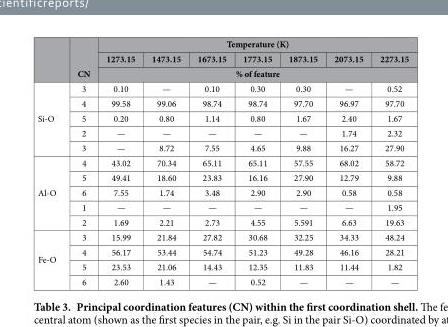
<table><thead><tr><td rowspan="3"></td><td rowspan="3">CN</td><td colspan="7">Temperature (K)</td></tr><tr><td>1273.15</td><td>1473.15</td><td>1673.15</td><td>1773.15</td><td>1873.15</td><td>2073.15</td><td>2273.15</td></tr><tr><td colspan="7">% of feature</td></tr></thead><tbody><tr><td rowspan="5">Si-O</td><td>3</td><td>0.10</td><td>—</td><td>0.10</td><td>0.30</td><td>0.30</td><td>—</td><td>0.52</td></tr><tr><td>4</td><td>99.58</td><td>99.06</td><td>98.74</td><td>98.74</td><td>97.70</td><td>96.97</td><td>97.70</td></tr><tr><td>5</td><td>0.20</td><td>0.80</td><td>1.14</td><td>0.80</td><td>1.67</td><td>2.40</td><td>1.67</td></tr><tr><td>2</td><td>—</td><td>—</td><td>—</td><td>—</td><td>—</td><td>1.74</td><td>2.32</td></tr><tr><td>3</td><td>—</td><td>8.72</td><td>7.55</td><td>4.65</td><td>9.88</td><td>16.27</td><td>27.90</td></tr><tr><td rowspan="5">Al-O</td><td>4</td><td>43.02</td><td>70.34</td><td>65.11</td><td>65.11</td><td>57.55</td><td>68.02</td><td>58.72</td></tr><tr><td>5</td><td>49.41</td><td>18.60</td><td>23.83</td><td>16.16</td><td>27.90</td><td>12.79</td><td>9.88</td></tr><tr><td>6</td><td>7.55</td><td>1.74</td><td>3.48</td><td>2.90</td><td>2.90</td><td>0.58</td><td>0.58</td></tr><tr><td>1</td><td>—</td><td>—</td><td>—</td><td>—</td><td>—</td><td>—</td><td>1.95</td></tr><tr><td>2</td><td>1.69</td><td>2.21</td><td>2.73</td><td>4.55</td><td>5.591</td><td>6.63</td><td>19.63</td></tr><tr><td rowspan="4">Fe-O</td><td>3</td><td>15.99</td><td>21.84</td><td>27.82</td><td>30.68</td><td>32.25</td><td>34.33</td><td>48.24</td></tr><tr><td>4</td><td>56.17</td><td>53.44</td><td>54.74</td><td>51.23</td><td>49.28</td><td>46.16</td><td>28.21</td></tr><tr><td>5</td><td>23.53</td><td>21.06</td><td>14.43</td><td>12.35</td><td>11.83</td><td>11.44</td><td>1.82</td></tr><tr><td>6</td><td>2.60</td><td>1.43</td><td>—</td><td>0.52</td><td>—</td><td>—</td><td>—</td></tr></tbody></table>